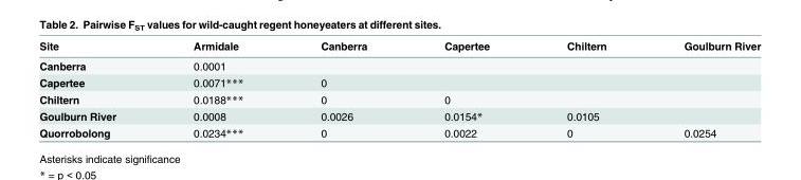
<table><thead><tr><td>Site</td><td>Armidale</td><td>Canberra</td><td>Capertee</td><td>Chiltern</td><td>Goulburn River</td></tr></thead><tbody><tr><td>Canberra</td><td>0.0001</td><td></td><td></td><td></td><td></td></tr><tr><td>Capertee</td><td>0.0071***</td><td>0</td><td></td><td></td><td></td></tr><tr><td>Chiltern</td><td>0.0188***</td><td>0</td><td>0</td><td></td><td></td></tr><tr><td>Goulburn River</td><td>0.0008</td><td>0.0026</td><td>0.0154*</td><td>0.0105</td><td></td></tr><tr><td>Quorrobolong</td><td>0.0234***</td><td>0</td><td>0.0022</td><td>0</td><td>0.0254</td></tr></tbody></table>